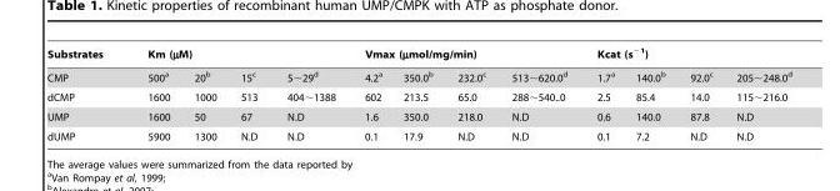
<table><thead><tr><td rowspan="2">Substrates CMP</td><td colspan="4">Km (µM)</td><td colspan="4">Vmax (µmol/mg/min)</td><td colspan="4">Kcat (s<sup>−1</sup>)</td></tr><tr><td>500<sup>a</sup></td><td>20<sup>b</sup></td><td>15<sup>c</sup></td><td>5∼29<sup>d</sup></td><td>4.2<sup>a</sup></td><td>350.0<sup>b</sup></td><td>232.0<sup>c</sup></td><td>513∼620.0<sup>d</sup></td><td>1.7<sup>a</sup></td><td>140.0<sup>b</sup></td><td>92.0<sup>c</sup></td><td>205∼248.0<sup>d</sup></td></tr></thead><tbody><tr><td>dCMP</td><td>1600</td><td>1000</td><td>513</td><td>404∼1388</td><td>602</td><td>213.5</td><td>65.0</td><td>288∼540..0</td><td>2.5</td><td>85.4</td><td>14.0</td><td>115∼216.0</td></tr><tr><td>UMP</td><td>1600</td><td>50</td><td>67</td><td>N.D</td><td>1.6</td><td>350.0</td><td>218.0</td><td>N.D</td><td>0.6</td><td>140.0</td><td>87.8</td><td>N.D</td></tr><tr><td>dUMP</td><td>5900</td><td>1300</td><td>N.D</td><td>N.D</td><td>0.1</td><td>17.9</td><td>N.D</td><td>N.D</td><td>0.1</td><td>7.2</td><td>N.D</td><td>N.D</td></tr></tbody></table>